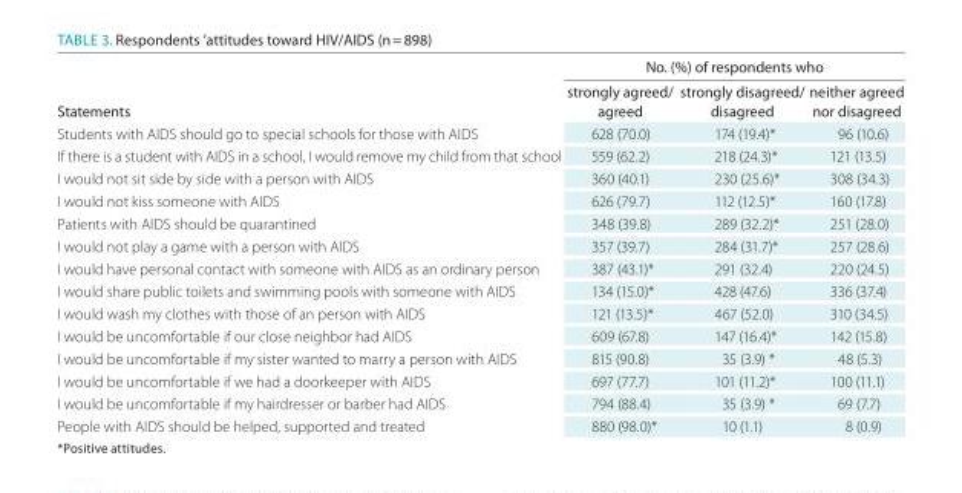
<table><thead><tr><td rowspan="2">statements</td><td colspan="3">No. (%) of respondents who</td></tr><tr><td>strongly agreed/ agreed</td><td>strongly disagreed/ disagreed</td><td>neither agreed nor disagreed</td></tr></thead><tbody><tr><td>Students with AIDS should go to special schools for those with AIDS</td><td>628 (70.0)</td><td>174 (19.4)*</td><td>96 (10.6)</td></tr><tr><td>If there is a student with AIDS in a school, I would remove my child from that school</td><td>559 (62.2)</td><td>218 (24.3)*</td><td>121 (13.5)</td></tr><tr><td>I would not sit side by side with a person with AIDS</td><td>360 (40.1)</td><td>230 (25.6)*</td><td>308 (34.3)</td></tr><tr><td>I would not kiss someone with AIDS</td><td>626 (79.7)</td><td>112 (12.5)*</td><td>160 (17.8)</td></tr><tr><td>Patients with AIDS should be quarantined</td><td>348 (39.8)</td><td>289 (32.2)*</td><td>251 (28.0)</td></tr><tr><td>I would not play a game with a person with AIDS</td><td>357 (39.7)</td><td>284 (31.7)*</td><td>257 (28.6)</td></tr><tr><td>I would have personal contact with someone with AIDS as an ordinary person</td><td>387 (43.1)*</td><td>291 (32.4)</td><td>220 (24.5)</td></tr><tr><td>I would share public toilets and swimming pools with someone with AIDS</td><td>134 (15.0)*</td><td>428 (47.6)</td><td>336 (37.4)</td></tr><tr><td>I would wash my clothes with those of an person with AIDS</td><td>121 (13.5)*</td><td>467 (52.0)</td><td>310 (34.5)</td></tr><tr><td>I would be uncomfortable if our close neighbor had AIDS</td><td>609 (67.8)</td><td>147 (16.4)*</td><td>142 (15.8)</td></tr><tr><td>I would be uncomfortable if my sister wanted to marry a person with AIDS</td><td>815 (90.8)</td><td>35 (3.9) *</td><td>48 (5.3)</td></tr><tr><td>I would be uncomfortable if we had a doorkeeper with AIDS</td><td>697 (77.7)</td><td>101 (11.2)*</td><td>100 (11.1)</td></tr><tr><td>I would be uncomfortable if my hairdresser or barber had AIDS</td><td>794 (88.4)</td><td>35 (3.9) *</td><td>69 (7.7)</td></tr><tr><td>People with AIDS should be helped, supported and treated</td><td>880 (98.0)*</td><td>10 (1.1)</td><td>8 (0.9)</td></tr></tbody></table>